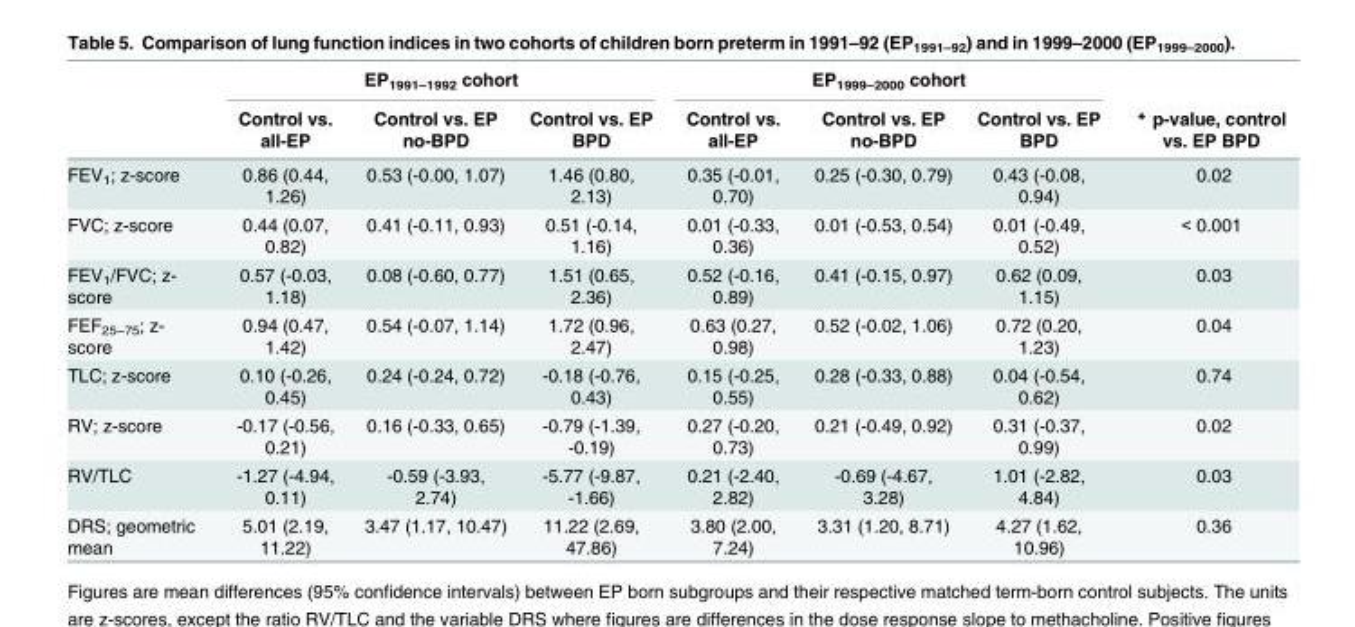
<table><thead><tr><td rowspan="2"></td><td colspan="3">EP<sub>1991–1992</sub> cohort</td><td colspan="3">EP<sub>1999–2000</sub> cohort</td><td rowspan="2">* p-value, control vs. EP BPD</td></tr><tr><td>Control vs. all-EP</td><td>Control vs. EP no-BPD</td><td>Control vs. EP BPD</td><td>Control vs. all-EP</td><td>Control vs. EP no-BPD</td><td>Control vs. EP BPD</td></tr></thead><tbody><tr><td>FEV<sub>1</sub>; z-score</td><td>0.86 (0.44, 1.26)</td><td>0.53 (-0.00, 1.07)</td><td>1.46 (0.80, 2.13)</td><td>0.35 (-0.01, 0.70)</td><td>0.25 (-0.30, 0.79)</td><td>0.43 (-0.08, 0.94)</td><td>0.02</td></tr><tr><td>FVC; z-score</td><td>0.44 (0.07, 0.82)</td><td>0.41 (-0.11, 0.93)</td><td>0.51 (-0.14, 1.16)</td><td>0.01 (-0.33, 0.36)</td><td>0.01 (-0.53, 0.54)</td><td>0.01 (-0.49, 0.52)</td><td>&lt; 0.001</td></tr><tr><td>FEV<sub>1</sub>/FVC; z- score</td><td>0.57 (-0.03, 1.18)</td><td>0.08 (-0.60, 0.77)</td><td>1.51 (0.65, 2.36)</td><td>0.52 (-0.16, 0.89)</td><td>0.41 (-0.15, 0.97)</td><td>0.62 (0.09, 1.15)</td><td>0.03</td></tr><tr><td>FEF<sub>25–75</sub>; z- score</td><td>0.94 (0.47, 1.42)</td><td>0.54 (-0.07, 1.14)</td><td>1.72 (0.96, 2.47)</td><td>0.63 (0.27, 0.98)</td><td>0.52 (-0.02, 1.06)</td><td>0.72 (0.20, 1.23)</td><td>0.04</td></tr><tr><td>TLC; z-score</td><td>0.10 (-0.26, 0.45)</td><td>0.24 (-0.24, 0.72)</td><td>-0.18 (-0.76, 0.43)</td><td>0.15 (-0.25, 0.55)</td><td>0.28 (-0.33, 0.88)</td><td>0.04 (-0.54, 0.62)</td><td>0.74</td></tr><tr><td>RV; z-score</td><td>-0.17 (-0.56, 0.21)</td><td>0.16 (-0.33, 0.65)</td><td>-0.79 (-1.39, -0.19)</td><td>0.27 (-0.20, 0.73)</td><td>0.21 (-0.49, 0.92)</td><td>0.31 (-0.37, 0.99)</td><td>0.02</td></tr><tr><td>RV/TLC</td><td>-1.27 (-4.94, 0.11)</td><td>-0.59 (-3.93, 2.74)</td><td>-5.77 (-9.87, -1.66)</td><td>0.21 (-2.40, 2.82)</td><td>-0.69 (-4.67, 3.28)</td><td>1.01 (-2.82, 4.84)</td><td>0.03</td></tr><tr><td>DRS; geometric mean</td><td>5.01 (2.19, 11.22)</td><td>3.47 (1.17, 10.47)</td><td>11.22 (2.69, 47.86)</td><td>3.80 (2.00, 7.24)</td><td>3.31 (1.20, 8.71)</td><td>4.27 (1.62, 10.96)</td><td>0.36</td></tr></tbody></table>